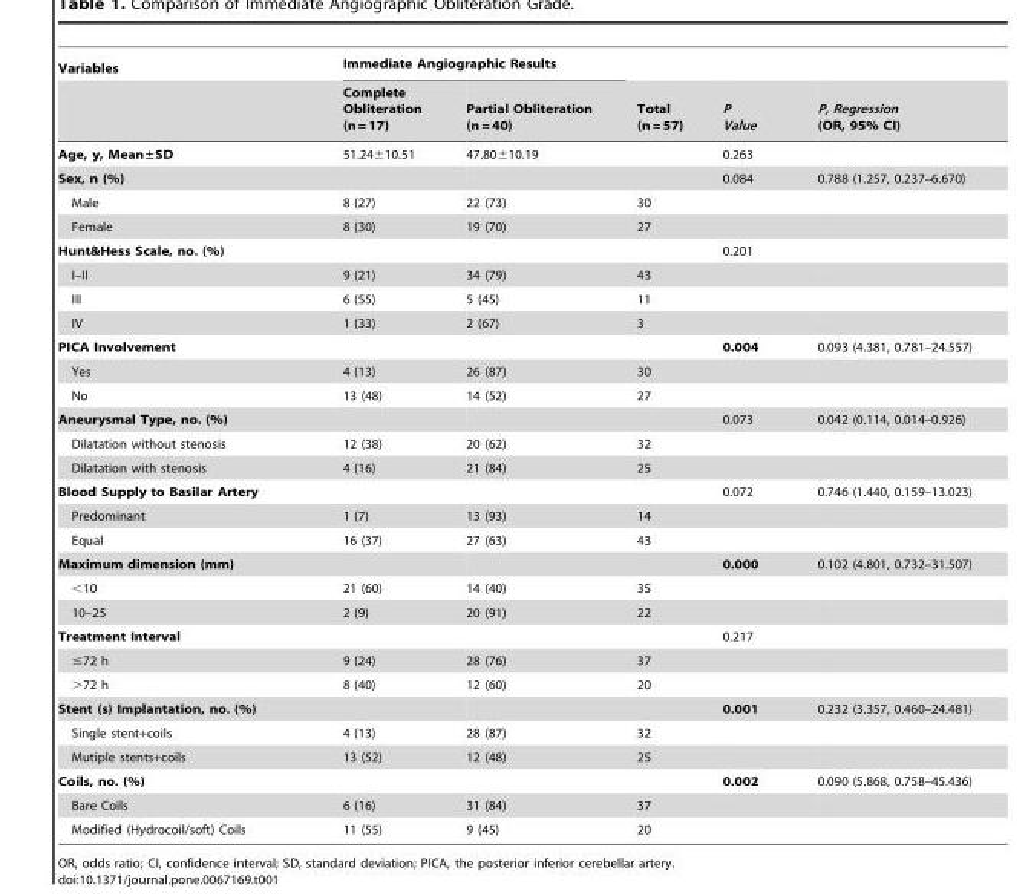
<table><thead><tr><td rowspan="2">Variables</td><td colspan="2">Immediate Angiographic Results</td><td rowspan="2">Total (n = 57)</td><td rowspan="2">P Value</td><td rowspan="2">P, Regression (OR, 95% CI)</td></tr><tr><td>Complete Obliteration (n = 17)</td><td>Partial Obliteration (n = 40)</td></tr></thead><tbody><tr><td>Age, y, Mean±SD</td><td>51.24±10.51</td><td>47.80±10.19</td><td></td><td>0.263</td><td></td></tr><tr><td>Sex, n (%)</td><td></td><td></td><td></td><td>0.084</td><td>0.788 (1.257, 0.237–6.670)</td></tr><tr><td>Male</td><td>8 (27)</td><td>22 (73)</td><td>30</td><td></td><td></td></tr><tr><td>Female</td><td>8 (30)</td><td>19 (70)</td><td>27</td><td></td><td></td></tr><tr><td>Hunt&amp;Hess Scale, no. (%)</td><td></td><td></td><td></td><td>0.201</td><td></td></tr><tr><td>I–II</td><td>9 (21)</td><td>34 (79)</td><td>43</td><td></td><td></td></tr><tr><td>III</td><td>6 (55)</td><td>5 (45)</td><td>11</td><td></td><td></td></tr><tr><td>IV</td><td>1 (33)</td><td>2 (67)</td><td>3</td><td></td><td></td></tr><tr><td>PICA Involvement</td><td></td><td></td><td></td><td>0.004</td><td>0.093 (4.381, 0.781–24.557)</td></tr><tr><td>Yes</td><td>4 (13)</td><td>26 (87)</td><td>30</td><td></td><td></td></tr><tr><td>No</td><td>13 (48)</td><td>14 (52)</td><td>27</td><td></td><td></td></tr><tr><td>Aneurysmal Type, no. (%)</td><td></td><td></td><td></td><td>0.073</td><td>0.042 (0.114, 0.014–0.926)</td></tr><tr><td>Dilatation without stenosis</td><td>12 (38)</td><td>20 (62)</td><td>32</td><td></td><td></td></tr><tr><td>Dilatation with stenosis</td><td>4 (16)</td><td>21 (84)</td><td>25</td><td></td><td></td></tr><tr><td>Blood Supply to Basilar Artery</td><td></td><td></td><td></td><td>0.072</td><td>0.746 (1.440, 0.159–13.023)</td></tr><tr><td>Predominant</td><td>1 (7)</td><td>13 (93)</td><td>14</td><td></td><td></td></tr><tr><td>Equal</td><td>16 (37)</td><td>27 (63)</td><td>43</td><td></td><td></td></tr><tr><td>Maximum dimension (mm)</td><td></td><td></td><td></td><td>0.000</td><td>0.102 (4.801, 0.732–31.507)</td></tr><tr><td>&lt;10</td><td>21 (60)</td><td>14 (40)</td><td>35</td><td></td><td></td></tr><tr><td>10–25</td><td>2 (9)</td><td>20 (91)</td><td>22</td><td></td><td></td></tr><tr><td>Treatment Interval</td><td></td><td></td><td></td><td>0.217</td><td></td></tr><tr><td>≤72 h</td><td>9 (24)</td><td>28 (76)</td><td>37</td><td></td><td></td></tr><tr><td>&gt;72 h</td><td>8 (40)</td><td>12 (60)</td><td>20</td><td></td><td></td></tr><tr><td>Stent (s) Implantation, no. (%)</td><td></td><td></td><td></td><td>0.001</td><td>0.232 (3.357, 0.460–24.481)</td></tr><tr><td>Single stent+coils</td><td>4 (13)</td><td>28 (87)</td><td>32</td><td></td><td></td></tr><tr><td>Mutiple stents+coils</td><td>13 (52)</td><td>12 (48)</td><td>25</td><td></td><td></td></tr><tr><td>Coils, no. (%)</td><td></td><td></td><td></td><td>0.002</td><td>0.090 (5.868, 0.758–45.436)</td></tr><tr><td>Bare Coils</td><td>6 (16)</td><td>31 (84)</td><td>37</td><td></td><td></td></tr><tr><td>Modified (Hydrocoil/soft) Coils</td><td>11 (55)</td><td>9 (45)</td><td>20</td><td></td><td></td></tr></tbody></table>